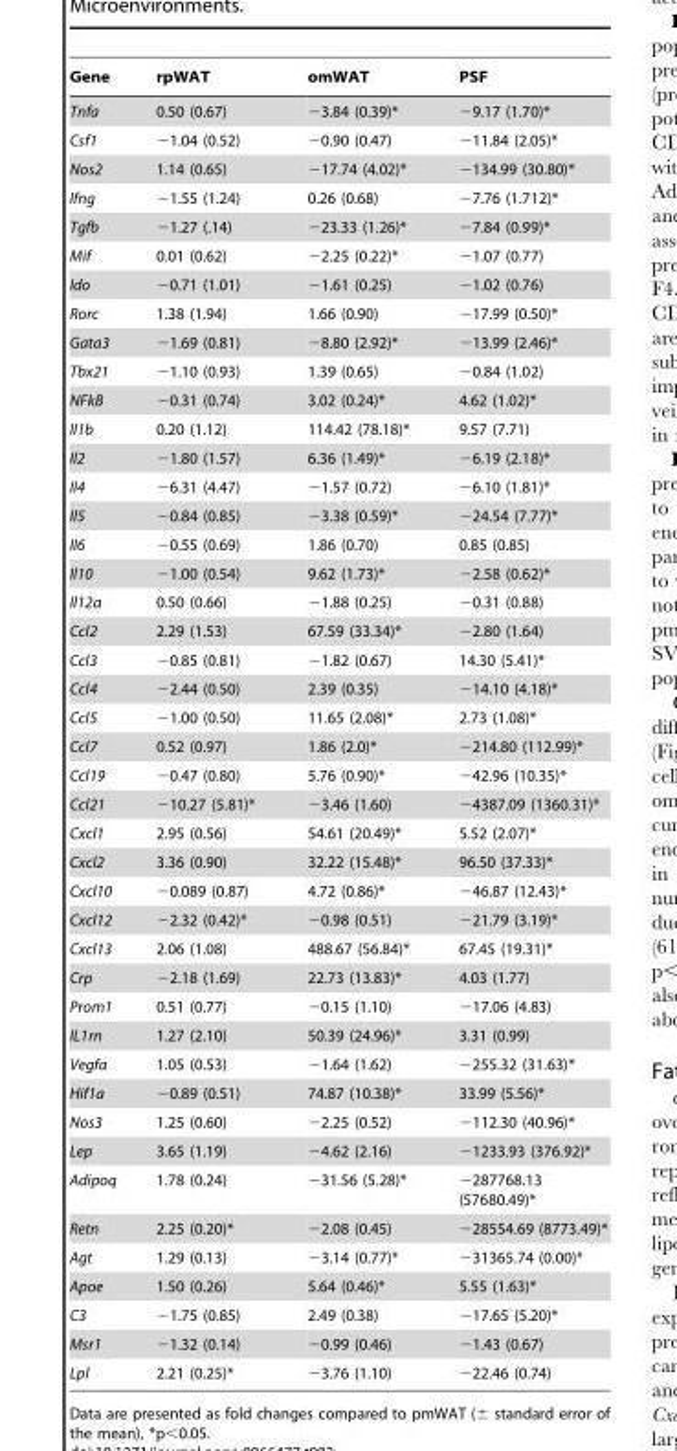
<table><thead><tr><td>Gene</td><td>rpWAT</td><td>omWAT</td><td>PSF</td></tr></thead><tbody><tr><td>Tnfa</td><td>0.50 (0.67)</td><td>−3.84 (0.39)*</td><td>−9.17 (1.70)*</td></tr><tr><td>Csf1</td><td>−1.04 (0.52)</td><td>−0.90 (0.47)</td><td>−11.84 (2.05)*</td></tr><tr><td>Nos2</td><td>1.14 (0.65)</td><td>−17.74 (4.02)*</td><td>−134.99 (30.80)*</td></tr><tr><td>Ifng</td><td>−1.55 (1.24)</td><td>0.26 (0.68)</td><td>−7.76 (1.712)*</td></tr><tr><td>Tgfb</td><td>−1.27 (.14)</td><td>−23.33 (1.26)*</td><td>−7.84 (0.99)*</td></tr><tr><td>Mif</td><td>0.01 (0.62)</td><td>−2.25 (0.22)*</td><td>−1.07 (0.77)</td></tr><tr><td>Ido</td><td>−0.71 (1.01)</td><td>−1.61 (0.25)</td><td>−1.02 (0.76)</td></tr><tr><td>Rorc</td><td>1.38 (1.94)</td><td>1.66 (0.90)</td><td>−17.99 (0.50)*</td></tr><tr><td>Gata3</td><td>−1.69 (0.81)</td><td>−8.80 (2.92)*</td><td>−13.99 (2.46)*</td></tr><tr><td>Tbx21</td><td>−1.10 (0.93)</td><td>1.39 (0.65)</td><td>−0.84 (1.02)</td></tr><tr><td>NFkB</td><td>−0.31 (0.74)</td><td>3.02 (0.24)*</td><td>4.62 (1.02)*</td></tr><tr><td>Il1b</td><td>0.20 (1.12)</td><td>114.42 (78.18)*</td><td>9.57 (7.71)</td></tr><tr><td>Il2</td><td>−1.80 (1.57)</td><td>6.36 (1.49)*</td><td>−6.19 (2.18)*</td></tr><tr><td>Il4</td><td>−6.31 (4.47)</td><td>−1.57 (0.72)</td><td>−6.10 (1.81)*</td></tr><tr><td>Il5</td><td>−0.84 (0.85)</td><td>−3.38 (0.59)*</td><td>−24.54 (7.77)*</td></tr><tr><td>Il6</td><td>−0.55 (0.69)</td><td>1.86 (0.70)</td><td>0.85 (0.85)</td></tr><tr><td>Il10</td><td>−1.00 (0.54)</td><td>9.62 (1.73)*</td><td>−2.58 (0.62)*</td></tr><tr><td>Il12a</td><td>0.50 (0.66)</td><td>−1.88 (0.25)</td><td>−0.31 (0.88)</td></tr><tr><td>Ccl2</td><td>2.29 (1.53)</td><td>67.59 (33.34)*</td><td>−2.80 (1.64)</td></tr><tr><td>Ccl3</td><td>−0.85 (0.81)</td><td>−1.82 (0.67)</td><td>14.30 (5.41)*</td></tr><tr><td>Ccl4</td><td>−2.44 (0.50)</td><td>2.39 (0.35)</td><td>−14.10 (4.18)*</td></tr><tr><td>Ccl5</td><td>−1.00 (0.50)</td><td>11.65 (2.08)*</td><td>2.73 (1.08)*</td></tr><tr><td>Ccl7</td><td>0.52 (0.97)</td><td>1.86 (2.0)*</td><td>−214.80 (112.99)*</td></tr><tr><td>Ccl19</td><td>−0.47 (0.80)</td><td>5.76 (0.90)*</td><td>−42.96 (10.35)*</td></tr><tr><td>Ccl21</td><td>−10.27 (5.81)*</td><td>−3.46 (1.60)</td><td>−4387.09 (1360.31)*</td></tr><tr><td>Cxcl1</td><td>2.95 (0.56)</td><td>54.61 (20.49)*</td><td>5.52 (2.07)*</td></tr><tr><td>Cxcl2</td><td>3.36 (0.90)</td><td>32.22 (15.48)*</td><td>96.50 (37.33)*</td></tr><tr><td>Cxcl10</td><td>−0.089 (0.87)</td><td>4.72 (0.86)*</td><td>−46.87 (12.43)*</td></tr><tr><td>Cxcl12</td><td>−2.32 (0.42)*</td><td>−0.98 (0.51)</td><td>−21.79 (3.19)*</td></tr><tr><td>Cxcl13</td><td>2.06 (1.08)</td><td>488.67 (56.84)*</td><td>67.45 (19.31)*</td></tr><tr><td>Crp</td><td>−2.18 (1.69)</td><td>22.73 (13.83)*</td><td>4.03 (1.77)</td></tr><tr><td>Prom1</td><td>0.51 (0.77)</td><td>−0.15 (1.10)</td><td>−17.06 (4.83)</td></tr><tr><td>IL1rn</td><td>1.27 (2.10)</td><td>50.39 (24.96)*</td><td>3.31 (0.99)</td></tr><tr><td>Vegfa</td><td>1.05 (0.53)</td><td>−1.64 (1.62)</td><td>−255.32 (31.63)*</td></tr><tr><td>Hif1a</td><td>−0.89 (0.51)</td><td>74.87 (10.38)*</td><td>33.99 (5.56)*</td></tr><tr><td>Nos3</td><td>1.25 (0.60)</td><td>−2.25 (0.52)</td><td>−112.30 (40.96)*</td></tr><tr><td>Lep</td><td>3.65 (1.19)</td><td>−4.62 (2.16)</td><td>−1233.93 (376.92)*</td></tr><tr><td>Adipoq</td><td>1.78 (0.24)</td><td>−31.56 (5.28)*</td><td>−287768.13 (57680.49)*</td></tr><tr><td>Retn</td><td>2.25 (0.20)*</td><td>−2.08 (0.45)</td><td>−28554.69 (8773.49)*</td></tr><tr><td>Agt</td><td>1.29 (0.13)</td><td>−3.14 (0.77)*</td><td>−31365.74 (0.00)*</td></tr><tr><td>Apoe</td><td>1.50 (0.26)</td><td>5.64 (0.46)*</td><td>5.55 (1.63)*</td></tr><tr><td>C3</td><td>−1.75 (0.85)</td><td>2.49 (0.38)</td><td>−17.65 (5.20)*</td></tr><tr><td>Msr1</td><td>−1.32 (0.14)</td><td>−0.99 (0.46)</td><td>−1.43 (0.67)</td></tr><tr><td>Lpl</td><td>2.21 (0.25)*</td><td>−3.76 (1.10)</td><td>−22.46 (0.74)</td></tr></tbody></table>